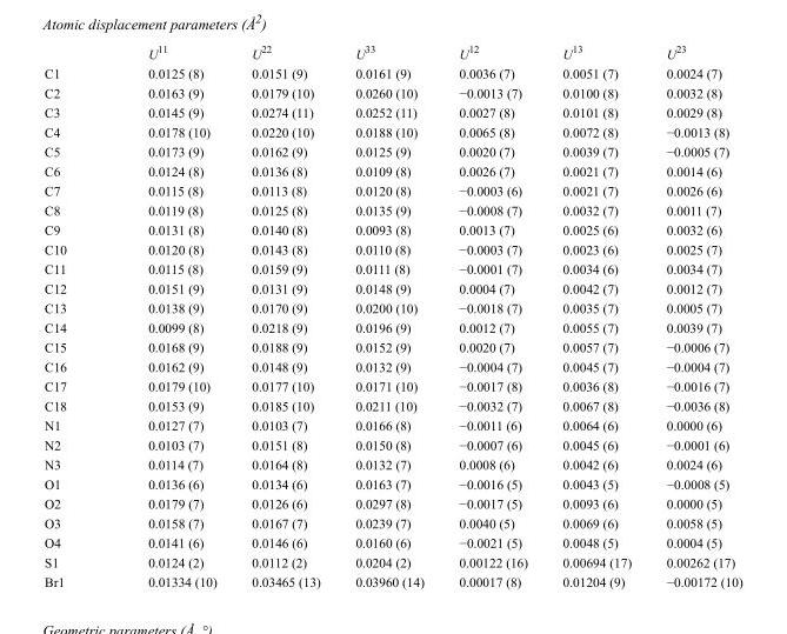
<table><thead><tr><td></td><td>U<sup>11</sup></td><td>U<sup>22</sup></td><td>U<sup>33</sup></td><td>U<sup>12</sup></td><td>U<sup>13</sup></td><td>U<sup>23</sup></td></tr></thead><tbody><tr><td>C1</td><td>0.0125 (8)</td><td>0.0151 (9)</td><td>0.0161 (9)</td><td>0.0036 (7)</td><td>0.0051 (7)</td><td>0.0024 (7)</td></tr><tr><td>C2</td><td>0.0163 (9)</td><td>0.0179 (10)</td><td>0.0260 (10)</td><td>−0.0013 (7)</td><td>0.0100 (8)</td><td>0.0032 (8)</td></tr><tr><td>C3</td><td>0.0145 (9)</td><td>0.0274 (11)</td><td>0.0252 (11)</td><td>0.0027 (8)</td><td>0.0101 (8)</td><td>0.0029 (8)</td></tr><tr><td>C4</td><td>0.0178 (10)</td><td>0.0220 (10)</td><td>0.0188 (10)</td><td>0.0065 (8)</td><td>0.0072 (8)</td><td>−0.0013 (8)</td></tr><tr><td>C5</td><td>0.0173 (9)</td><td>0.0162 (9)</td><td>0.0125 (9)</td><td>0.0020 (7)</td><td>0.0039 (7)</td><td>−0.0005 (7)</td></tr><tr><td>C6</td><td>0.0124 (8)</td><td>0.0136 (8)</td><td>0.0109 (8)</td><td>0.0026 (7)</td><td>0.0021 (7)</td><td>0.0014 (6)</td></tr><tr><td>C7</td><td>0.0115 (8)</td><td>0.0113 (8)</td><td>0.0120 (8)</td><td>−0.0003 (6)</td><td>0.0021 (7)</td><td>0.0026 (6)</td></tr><tr><td>C8</td><td>0.0119 (8)</td><td>0.0125 (8)</td><td>0.0135 (9)</td><td>−0.0008 (7)</td><td>0.0032 (7)</td><td>0.0011 (7)</td></tr><tr><td>C9</td><td>0.0131 (8)</td><td>0.0140 (8)</td><td>0.0093 (8)</td><td>0.0013 (7)</td><td>0.0025 (6)</td><td>0.0032 (6)</td></tr><tr><td>C10</td><td>0.0120 (8)</td><td>0.0143 (8)</td><td>0.0110 (8)</td><td>−0.0003 (7)</td><td>0.0023 (6)</td><td>0.0025 (7)</td></tr><tr><td>C11</td><td>0.0115 (8)</td><td>0.0159 (9)</td><td>0.0111 (8)</td><td>−0.0001 (7)</td><td>0.0034 (6)</td><td>0.0034 (7)</td></tr><tr><td>C12</td><td>0.0151 (9)</td><td>0.0131 (9)</td><td>0.0148 (9)</td><td>0.0004 (7)</td><td>0.0042 (7)</td><td>0.0012 (7)</td></tr><tr><td>C13</td><td>0.0138 (9)</td><td>0.0170 (9)</td><td>0.0200 (10)</td><td>−0.0018 (7)</td><td>0.0035 (7)</td><td>0.0005 (7)</td></tr><tr><td>C14</td><td>0.0099 (8)</td><td>0.0218 (9)</td><td>0.0196 (9)</td><td>0.0012 (7)</td><td>0.0055 (7)</td><td>0.0039 (7)</td></tr><tr><td>C15</td><td>0.0168 (9)</td><td>0.0188 (9)</td><td>0.0152 (9)</td><td>0.0020 (7)</td><td>0.0057 (7)</td><td>−0.0006 (7)</td></tr><tr><td>C16</td><td>0.0162 (9)</td><td>0.0148 (9)</td><td>0.0132 (9)</td><td>−0.0004 (7)</td><td>0.0045 (7)</td><td>−0.0004 (7)</td></tr><tr><td>C17</td><td>0.0179 (10)</td><td>0.0177 (10)</td><td>0.0171 (10)</td><td>−0.0017 (8)</td><td>0.0036 (8)</td><td>−0.0016 (7)</td></tr><tr><td>C18</td><td>0.0153 (9)</td><td>0.0185 (10)</td><td>0.0211 (10)</td><td>−0.0032 (7)</td><td>0.0067 (8)</td><td>−0.0036 (8)</td></tr><tr><td>N1</td><td>0.0127 (7)</td><td>0.0103 (7)</td><td>0.0166 (8)</td><td>−0.0011 (6)</td><td>0.0064 (6)</td><td>0.0000 (6)</td></tr><tr><td>N2</td><td>0.0103 (7)</td><td>0.0151 (8)</td><td>0.0150 (8)</td><td>−0.0007 (6)</td><td>0.0045 (6)</td><td>−0.0001 (6)</td></tr><tr><td>N3</td><td>0.0114 (7)</td><td>0.0164 (8)</td><td>0.0132 (7)</td><td>0.0008 (6)</td><td>0.0042 (6)</td><td>0.0024 (6)</td></tr><tr><td>O1</td><td>0.0136 (6)</td><td>0.0134 (6)</td><td>0.0163 (7)</td><td>−0.0016 (5)</td><td>0.0043 (5)</td><td>−0.0008 (5)</td></tr><tr><td>O2</td><td>0.0179 (7)</td><td>0.0126 (6)</td><td>0.0297 (8)</td><td>−0.0017 (5)</td><td>0.0093 (6)</td><td>0.0000 (5)</td></tr><tr><td>O3</td><td>0.0158 (7)</td><td>0.0167 (7)</td><td>0.0239 (7)</td><td>0.0040 (5)</td><td>0.0069 (6)</td><td>0.0058 (5)</td></tr><tr><td>O4</td><td>0.0141 (6)</td><td>0.0146 (6)</td><td>0.0160 (6)</td><td>−0.0021 (5)</td><td>0.0048 (5)</td><td>0.0004 (5)</td></tr><tr><td>S1</td><td>0.0124 (2)</td><td>0.0112 (2)</td><td>0.0204 (2)</td><td>0.00122 (16)</td><td>0.00694 (17)</td><td>0.00262 (17)</td></tr><tr><td>Br1</td><td>0.01334 (10)</td><td>0.03465 (13)</td><td>0.03960 (14)</td><td>0.00017 (8)</td><td>0.01204 (9)</td><td>−0.00172 (10)</td></tr></tbody></table>